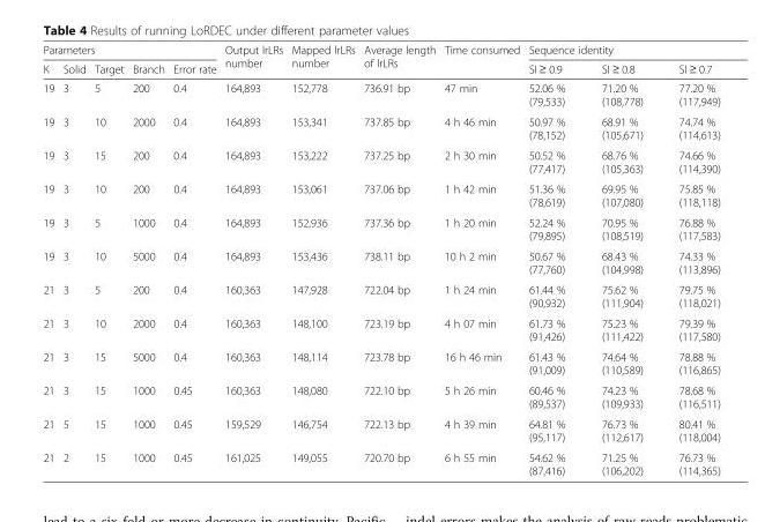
<table><thead><tr><td colspan="5">Parameters</td><td rowspan="2">Output lrLRs number</td><td rowspan="2">Mapped lrLRs number</td><td rowspan="2">Average length of lrLRs</td><td rowspan="2">Time consumed</td><td colspan="3">Sequence identity</td></tr><tr><td>K</td><td>Solid</td><td>Target</td><td>Branch</td><td>Error rate</td><td>SI ≥ 0.9</td><td>SI ≥ 0.8</td><td>SI ≥ 0.7</td></tr></thead><tbody><tr><td>19</td><td>3</td><td>5</td><td>200</td><td>0.4</td><td>164,893</td><td>152,778</td><td>736.91 bp</td><td>47 min</td><td>52.06 % (79,533)</td><td>71.20 % (108,778)</td><td>77.20 % (117,949)</td></tr><tr><td>19</td><td>3</td><td>10</td><td>2000</td><td>0.4</td><td>164,893</td><td>153,341</td><td>737.85 bp</td><td>4 h 46 min</td><td>50.97 % (78,152)</td><td>68.91 % (105,671)</td><td>74.74 % (114,613)</td></tr><tr><td>19</td><td>3</td><td>15</td><td>200</td><td>0.4</td><td>164,893</td><td>153,222</td><td>737.25 bp</td><td>2 h 30 min</td><td>50.52 % (77,417)</td><td>68.76 % (105,363)</td><td>74.66 % (114,390)</td></tr><tr><td>19</td><td>3</td><td>10</td><td>200</td><td>0.4</td><td>164,893</td><td>153,061</td><td>737.06 bp</td><td>1 h 42 min</td><td>51.36 % (78,619)</td><td>69.95 % (107,080)</td><td>75.85 % (118,118)</td></tr><tr><td>19</td><td>3</td><td>5</td><td>1000</td><td>0.4</td><td>164,893</td><td>152,936</td><td>737.36 bp</td><td>1 h 20 min</td><td>52.24 % (79,895)</td><td>70.95 % (108,519)</td><td>76.88 % (117,583)</td></tr><tr><td>19</td><td>3</td><td>10</td><td>5000</td><td>0.4</td><td>164,893</td><td>153,436</td><td>738.11 bp</td><td>10 h 2 min</td><td>50.67 % (77,760)</td><td>68.43 % (104,998)</td><td>74.33 % (113,896)</td></tr><tr><td>21</td><td>3</td><td>5</td><td>200</td><td>0.4</td><td>160,363</td><td>147,928</td><td>722.04 bp</td><td>1 h 24 min</td><td>61.44 % (90,932)</td><td>75.62 % (111,904)</td><td>79.75 % (118,021)</td></tr><tr><td>21</td><td>3</td><td>10</td><td>2000</td><td>0.4</td><td>160,363</td><td>148,100</td><td>723.19 bp</td><td>4 h 07 min</td><td>61.73 % (91,426)</td><td>75.23 % (111,422)</td><td>79.39 % (117,580)</td></tr><tr><td>21</td><td>3</td><td>15</td><td>5000</td><td>0.4</td><td>160,363</td><td>148,114</td><td>723.78 bp</td><td>16 h 46 min</td><td>61.43 % (91,009)</td><td>74.64 % (110,589)</td><td>78.88 % (116,865)</td></tr><tr><td>21</td><td>3</td><td>15</td><td>1000</td><td>0.45</td><td>160,363</td><td>148,080</td><td>722.10 bp</td><td>5 h 26 min</td><td>60.46 % (89,537)</td><td>74.23 % (109,933)</td><td>78.68 % (116,511)</td></tr><tr><td>21</td><td>5</td><td>15</td><td>1000</td><td>0.45</td><td>159,529</td><td>146,754</td><td>722.13 bp</td><td>4 h 39 min</td><td>64.81 % (95,117)</td><td>76.73 % (112,617)</td><td>80.41 % (118,004)</td></tr><tr><td>21</td><td>2</td><td>15</td><td>1000</td><td>0.45</td><td>161,025</td><td>149,055</td><td>720.70 bp</td><td>6 h 55 min</td><td>54.62 % (87,416)</td><td>71.25 % (106,202)</td><td>76.73 % (114,365)</td></tr></tbody></table>